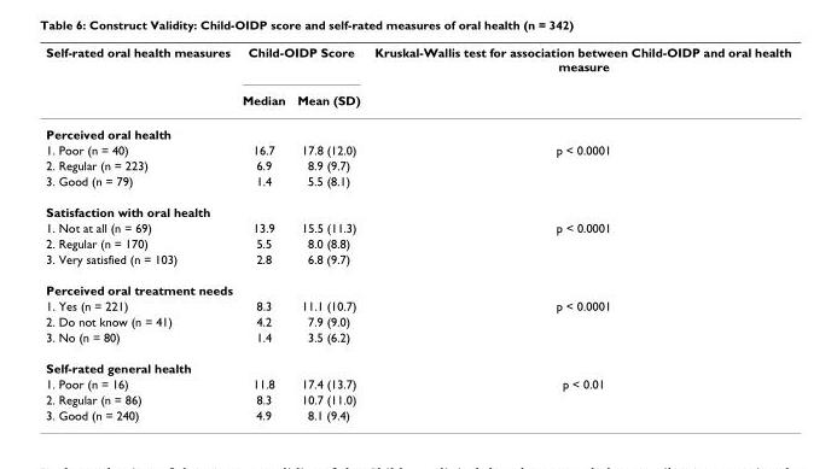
<table><thead><tr><td rowspan="2">Self-rated oral health measures</td><td colspan="2">Child-OIDP Score</td><td rowspan="2">Kruskal-Wallis test for association between Child-OIDP and oral health measure</td></tr><tr><td>Median</td><td>Mean (SD)</td></tr></thead><tbody><tr><td colspan="4">Perceived oral health</td></tr><tr><td>1. Poor (n = 40)</td><td>16.7</td><td>17.8 (12.0)</td><td>p &lt; 0.0001</td></tr><tr><td>2. Regular (n = 223)</td><td>6.9</td><td>8.9 (9.7)</td><td></td></tr><tr><td>3. Good (n = 79)</td><td>1.4</td><td>5.5 (8.1)</td><td></td></tr><tr><td colspan="4">Satisfaction with oral health</td></tr><tr><td>1. Not at all (n = 69)</td><td>13.9</td><td>15.5 (11.3)</td><td>p &lt; 0.0001</td></tr><tr><td>2. Regular (n = 170)</td><td>5.5</td><td>8.0 (8.8)</td><td></td></tr><tr><td>3. Very satisfied (n = 103)</td><td>2.8</td><td>6.8 (9.7)</td><td></td></tr><tr><td colspan="4">Perceived oral treatment needs</td></tr><tr><td>1. Yes (n = 221)</td><td>8.3</td><td>11.1 (10.7)</td><td>p &lt; 0.0001</td></tr><tr><td>2. Do not know (n = 41)</td><td>4.2</td><td>7.9 (9.0)</td><td></td></tr><tr><td>3. No (n = 80)</td><td>1.4</td><td>3.5 (6.2)</td><td></td></tr><tr><td colspan="4">Self-rated general health</td></tr><tr><td>1. Poor (n = 16)</td><td>11.8</td><td>17.4 (13.7)</td><td>p &lt; 0.01</td></tr><tr><td>2. Regular (n = 86)</td><td>8.3</td><td>10.7 (11.0)</td><td></td></tr><tr><td>3. Good (n = 240)</td><td>4.9</td><td>8.1 (9.4)</td><td></td></tr></tbody></table>